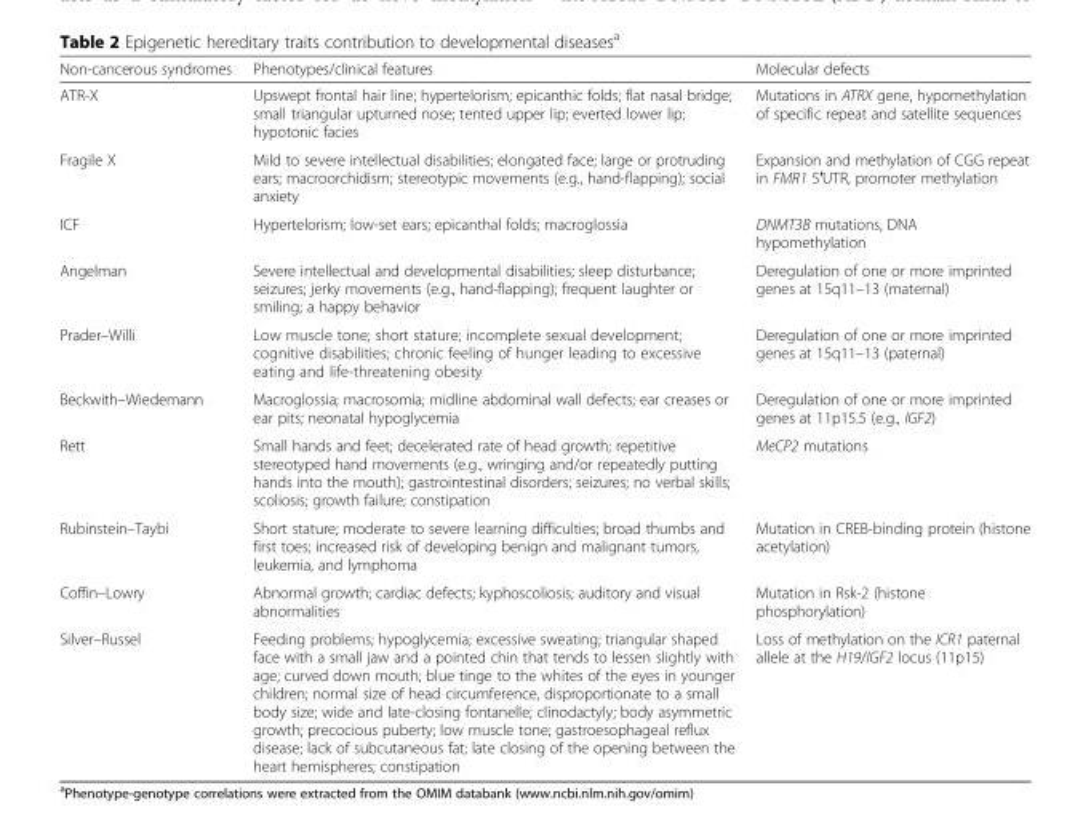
<table><thead><tr><td>Non-cancerous syndromes</td><td>Phenotypes/clinical features</td><td>Molecular defects</td></tr></thead><tbody><tr><td>ATR-X</td><td>Upswept frontal hair line; hypertelorism; epicanthic folds; flat nasal bridge; small triangular upturned nose; tented upper lip; everted lower lip; hypotonic facies</td><td>Mutations in ATRX gene, hypomethylation of specific repeat and satellite sequences</td></tr><tr><td>Fragile X</td><td>Mild to severe intellectual disabilities; elongated face; large or protruding ears; macroorchidism; stereotypic movements (e.g., hand-flapping); social anxiety</td><td>Expansion and methylation of CGG repeat in FMR1 5′UTR, promoter methylation</td></tr><tr><td>ICF</td><td>Hypertelorism; low-set ears; epicanthal folds; macroglossia</td><td>DNMT3B mutations, DNA hypomethylation</td></tr><tr><td>Angelman</td><td>Severe intellectual and developmental disabilities; sleep disturbance; seizures; jerky movements (e.g., hand-flapping); frequent laughter or smiling; a happy behavior</td><td>Deregulation of one or more imprinted genes at 15q11–13 (maternal)</td></tr><tr><td>Prader–Willi</td><td>Low muscle tone; short stature; incomplete sexual development; cognitive disabilities; chronic feeling of hunger leading to excessive eating and life-threatening obesity</td><td>Deregulation of one or more imprinted genes at 15q11–13 (paternal)</td></tr><tr><td>Beckwith–Wiedemann</td><td>Macroglossia; macrosomia; midline abdominal wall defects; ear creases or ear pits; neonatal hypoglycemia</td><td>Deregulation of one or more imprinted genes at 11p15.5 (e.g., IGF2)</td></tr><tr><td>Rett</td><td>Small hands and feet; decelerated rate of head growth; repetitive stereotyped hand movements (e.g., wringing and/or repeatedly putting hands into the mouth); gastrointestinal disorders; seizures; no verbal skills; scoliosis; growth failure; constipation</td><td>MeCP2 mutations</td></tr><tr><td>Rubinstein–Taybi</td><td>Short stature; moderate to severe learning difficulties; broad thumbs and first toes; increased risk of developing benign and malignant tumors, leukemia, and lymphoma</td><td>Mutation in CREB-binding protein (histone acetylation)</td></tr><tr><td>Coffin–Lowry</td><td>Abnormal growth; cardiac defects; kyphoscoliosis; auditory and visual abnormalities</td><td>Mutation in Rsk-2 (histone phosphorylation)</td></tr><tr><td>Silver–Russel</td><td>Feeding problems; hypoglycemia; excessive sweating; triangular shaped face with a small jaw and a pointed chin that tends to lessen slightly with age; curved down mouth; blue tinge to the whites of the eyes in younger children; normal size of head circumference, disproportionate to a small body size; wide and late-closing fontanelle; clinodactyly; body asymmetric growth; precocious puberty; low muscle tone; gastroesophageal reflux disease; lack of subcutaneous fat; late closing of the opening between the heart hemispheres; constipation</td><td>Loss of methylation on the ICR1 paternal allele at the H19/IGF2 locus (11p15)</td></tr></tbody></table>